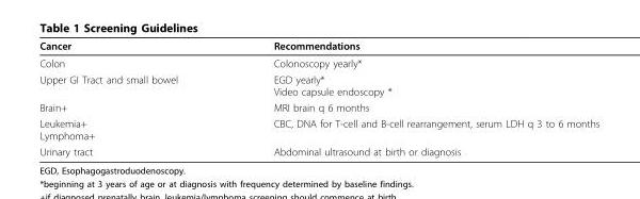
<table><thead><tr><td>Cancer</td><td>Recommendations</td></tr></thead><tbody><tr><td>Colon</td><td>Colonoscopy yearly*</td></tr><tr><td>Upper GI Tract and small bowel</td><td>EGD yearly* Video capsule endoscopy *</td></tr><tr><td>Brain+</td><td>MRI brain q 6 months</td></tr><tr><td>Leukemia+ Lymphoma+</td><td>CBC, DNA for T-cell and B-cell rearrangement, serum LDH q 3 to 6 months</td></tr><tr><td>Urinary tract</td><td>Abdominal ultrasound at birth or diagnosis</td></tr></tbody></table>